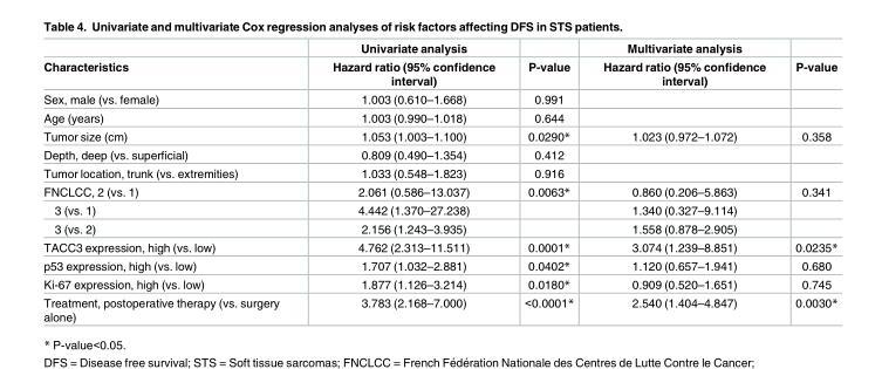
<table><thead><tr><td rowspan="2">Characteristics</td><td rowspan="2">Univariate analysis Hazard ratio (95% confidence interval)</td><td rowspan="2">P-value</td><td rowspan="2">Multivariate analysis Hazard ratio (95% confidence interval)</td><td rowspan="2">P-value</td></tr><tr></tr></thead><tbody><tr><td>Sex, male (vs. female)</td><td>1.003 (0.610–1.668)</td><td>0.991</td><td></td><td></td></tr><tr><td>Age (years)</td><td>1.003 (0.990–1.018)</td><td>0.644</td><td></td><td></td></tr><tr><td>Tumor size (cm)</td><td>1.053 (1.003–1.100)</td><td>0.0290*</td><td>1.023 (0.972–1.072)</td><td>0.358</td></tr><tr><td>Depth, deep (vs. superficial)</td><td>0.809 (0.490–1.354)</td><td>0.412</td><td></td><td></td></tr><tr><td>Tumor location, trunk (vs. extremities)</td><td>1.033 (0.548–1.823)</td><td>0.916</td><td></td><td></td></tr><tr><td>FNCLCC, 2 (vs. 1)</td><td>2.061 (0.586–13.037)</td><td>0.0063*</td><td>0.860 (0.206–5.863)</td><td>0.341</td></tr><tr><td>3 (vs. 1)</td><td>4.442 (1.370–27.238)</td><td></td><td>1.340 (0.327–9.114)</td><td></td></tr><tr><td>3 (vs. 2)</td><td>2.156 (1.243–3.935)</td><td></td><td>1.558 (0.878–2.905)</td><td></td></tr><tr><td>TACC3 expression, high (vs. low)</td><td>4.762 (2.313–11.511)</td><td>0.0001*</td><td>3.074 (1.239–8.851)</td><td>0.0235*</td></tr><tr><td>p53 expression, high (vs. low)</td><td>1.707 (1.032–2.881)</td><td>0.0402*</td><td>1.120 (0.657–1.941)</td><td>0.680</td></tr><tr><td>Ki-67 expression, high (vs. low)</td><td>1.877 (1.126–3.214)</td><td>0.0180*</td><td>0.909 (0.520–1.651)</td><td>0.745</td></tr><tr><td>Treatment, postoperative therapy (vs. surgery alone)</td><td>3.783 (2.168–7.000)</td><td>&lt;0.0001*</td><td>2.540 (1.404–4.847)</td><td>0.0030*</td></tr></tbody></table>